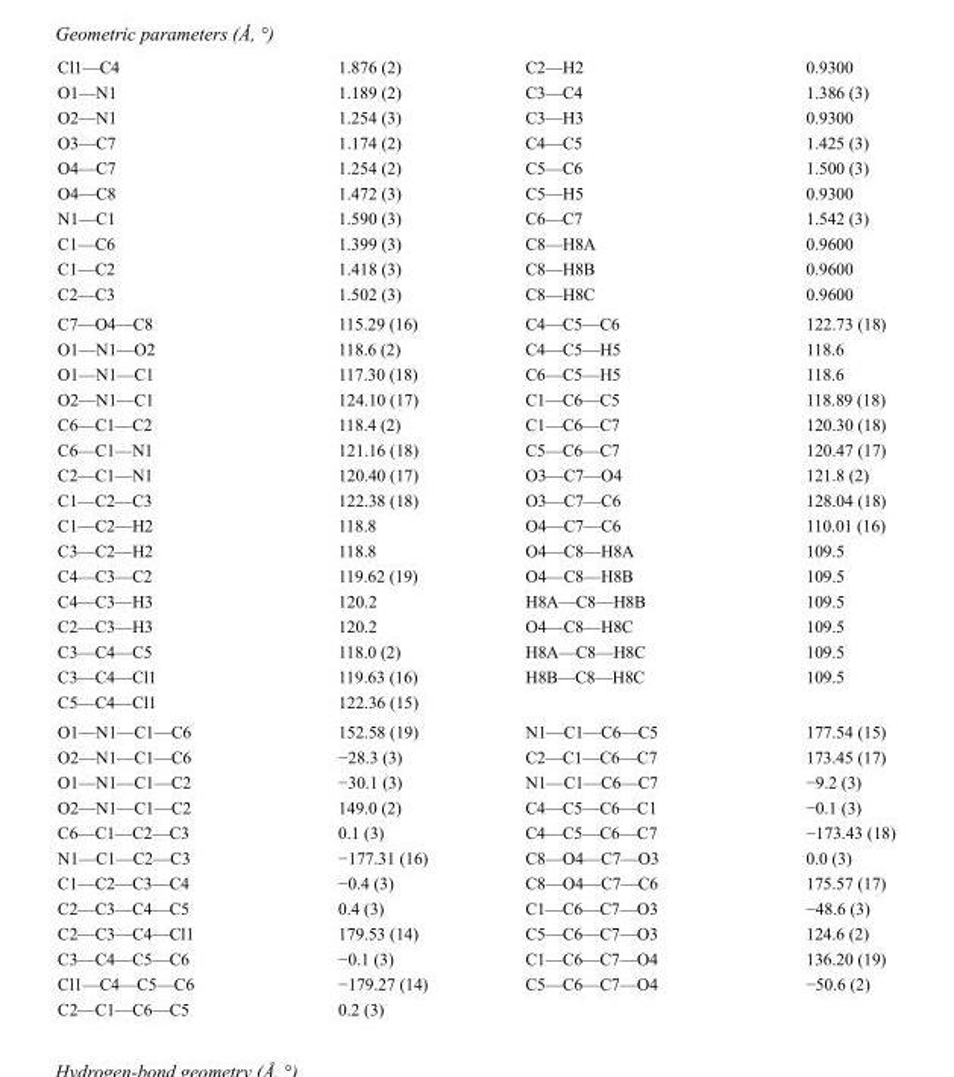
<table><tbody><tr><td>Cl1—C4</td><td>1.876 (2)</td><td>C2—H2</td><td>0.9300</td></tr><tr><td>O1—N1</td><td>1.189 (2)</td><td>C3—C4</td><td>1.386 (3)</td></tr><tr><td>O2—N1</td><td>1.254 (3)</td><td>C3—H3</td><td>0.9300</td></tr><tr><td>O3—C7</td><td>1.174 (2)</td><td>C4—C5</td><td>1.425 (3)</td></tr><tr><td>O4—C7</td><td>1.254 (2)</td><td>C5—C6</td><td>1.500 (3)</td></tr><tr><td>O4—C8</td><td>1.472 (3)</td><td>C5—H5</td><td>0.9300</td></tr><tr><td>N1—C1</td><td>1.590 (3)</td><td>C6—C7</td><td>1.542 (3)</td></tr><tr><td>C1—C6</td><td>1.399 (3)</td><td>C8—H8A</td><td>0.9600</td></tr><tr><td>C1—C2</td><td>1.418 (3)</td><td>C8—H8B</td><td>0.9600</td></tr><tr><td>C2—C3</td><td>1.502 (3)</td><td>C8—H8C</td><td>0.9600</td></tr><tr><td>C7—O4—C8</td><td>115.29 (16)</td><td>C4—C5—C6</td><td>122.73 (18)</td></tr><tr><td>O1—N1—O2</td><td>118.6 (2)</td><td>C4—C5—H5</td><td>118.6</td></tr><tr><td>O1—N1—C1</td><td>117.30 (18)</td><td>C6—C5—H5</td><td>118.6</td></tr><tr><td>O2—N1—C1</td><td>124.10 (17)</td><td>C1—C6—C5</td><td>118.89 (18)</td></tr><tr><td>C6—C1—C2</td><td>118.4 (2)</td><td>C1—C6—C7</td><td>120.30 (18)</td></tr><tr><td>C6—C1—N1</td><td>121.16 (18)</td><td>C5—C6—C7</td><td>120.47 (17)</td></tr><tr><td>C2—C1—N1</td><td>120.40 (17)</td><td>O3—C7—O4</td><td>121.8 (2)</td></tr><tr><td>C1—C2—C3</td><td>122.38 (18)</td><td>O3—C7—C6</td><td>128.04 (18)</td></tr><tr><td>C1—C2—H2</td><td>118.8</td><td>O4—C7—C6</td><td>110.01 (16)</td></tr><tr><td>C3—C2—H2</td><td>118.8</td><td>O4—C8—H8A</td><td>109.5</td></tr><tr><td>C4—C3—C2</td><td>119.62 (19)</td><td>O4—C8—H8B</td><td>109.5</td></tr><tr><td>C4—C3—H3</td><td>120.2</td><td>H8A—C8—H8B</td><td>109.5</td></tr><tr><td>C2—C3—H3</td><td>120.2</td><td>O4—C8—H8C</td><td>109.5</td></tr><tr><td>C3—C4—C5</td><td>118.0 (2)</td><td>H8A—C8—H8C</td><td>109.5</td></tr><tr><td>C3—C4—Cl1</td><td>119.63 (16)</td><td>H8B—C8—H8C</td><td>109.5</td></tr><tr><td>C5—C4—Cl1</td><td>122.36 (15)</td><td></td><td></td></tr><tr><td>O1—N1—C1—C6</td><td>152.58 (19)</td><td>N1—C1—C6—C5</td><td>177.54 (15)</td></tr><tr><td>O2—N1—C1—C6</td><td>−28.3 (3)</td><td>C2—C1—C6—C7</td><td>173.45 (17)</td></tr><tr><td>O1—N1—C1—C2</td><td>−30.1 (3)</td><td>N1—C1—C6—C7</td><td>−9.2 (3)</td></tr><tr><td>O2—N1—C1—C2</td><td>149.0 (2)</td><td>C4—C5—C6—C1</td><td>−0.1 (3)</td></tr><tr><td>C6—C1—C2—C3</td><td>0.1 (3)</td><td>C4—C5—C6—C7</td><td>−173.43 (18)</td></tr><tr><td>N1—C1—C2—C3</td><td>−177.31 (16)</td><td>C8—O4—C7—O3</td><td>0.0 (3)</td></tr><tr><td>C1—C2—C3—C4</td><td>−0.4 (3)</td><td>C8—O4—C7—C6</td><td>175.57 (17)</td></tr><tr><td>C2—C3—C4—C5</td><td>0.4 (3)</td><td>C1—C6—C7—O3</td><td>−48.6 (3)</td></tr><tr><td>C2—C3—C4—Cl1</td><td>179.53 (14)</td><td>C5—C6—C7—O3</td><td>124.6 (2)</td></tr><tr><td>C3—C4—C5—C6</td><td>−0.1 (3)</td><td>C1—C6—C7—O4</td><td>136.20 (19)</td></tr><tr><td>Cl1—C4—C5—C6</td><td>−179.27 (14)</td><td>C5—C6—C7—O4</td><td>−50.6 (2)</td></tr><tr><td>C2—C1—C6—C5</td><td>0.2 (3)</td><td></td><td></td></tr></tbody></table>